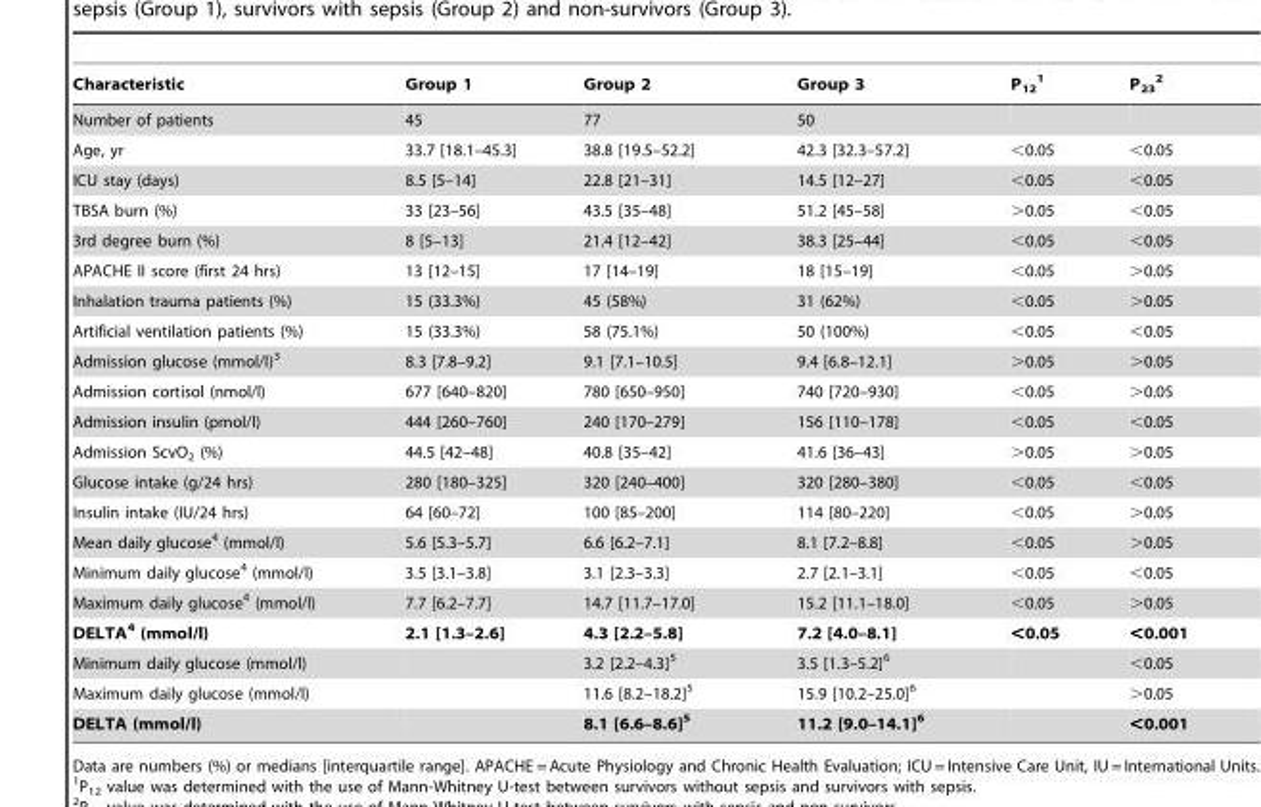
<table><thead><tr><td>Characteristic</td><td>Group 1</td><td>Group 2</td><td>Group 3</td><td>P<sub>12</sub> 1</td><td>P<sub>23</sub> 2</td></tr></thead><tbody><tr><td>Number of patients</td><td>45</td><td>77</td><td>50</td><td></td><td></td></tr><tr><td>Age, yr</td><td>33.7 [18.1–45.3]</td><td>38.8 [19.5–52.2]</td><td>42.3 [32.3–57.2]</td><td>&lt;0.05</td><td>&lt;0.05</td></tr><tr><td>ICU stay (days)</td><td>8.5 [5–14]</td><td>22.8 [21–31]</td><td>14.5 [12–27]</td><td>&lt;0.05</td><td>&lt;0.05</td></tr><tr><td>TBSA burn (%)</td><td>33 [23–56]</td><td>43.5 [35–48]</td><td>51.2 [45–58]</td><td>&gt;0.05</td><td>&lt;0.05</td></tr><tr><td>3rd degree burn (%)</td><td>8 [5–13]</td><td>21.4 [12–42]</td><td>38.3 [25–44]</td><td>&lt;0.05</td><td>&lt;0.05</td></tr><tr><td>APACHE II score (first 24 hrs)</td><td>13 [12–15]</td><td>17 [14–19]</td><td>18 [15–19]</td><td>&lt;0.05</td><td>&gt;0.05</td></tr><tr><td>Inhalation trauma patients (%)</td><td>15 (33.3%)</td><td>45 (58%)</td><td>31 (62%)</td><td>&lt;0.05</td><td>&gt;0.05</td></tr><tr><td>Artificial ventilation patients (%)</td><td>15 (33.3%)</td><td>58 (75.1%)</td><td>50 (100%)</td><td>&lt;0.05</td><td>&lt;0.05</td></tr><tr><td>Admission glucose (mmol/l)<sup>3</sup></td><td>8.3 [7.8–9.2]</td><td>9.1 [7.1–10.5]</td><td>9.4 [6.8–12.1]</td><td>&gt;0.05</td><td>&gt;0.05</td></tr><tr><td>Admission cortisol (nmol/l)</td><td>677 [640–820]</td><td>780 [650–950]</td><td>740 [720–930]</td><td>&lt;0.05</td><td>&gt;0.05</td></tr><tr><td>Admission insulin (pmol/l)</td><td>444 [260–760]</td><td>240 [170–279]</td><td>156 [110–178]</td><td>&lt;0.05</td><td>&lt;0.05</td></tr><tr><td>Admission ScvO<sub>2</sub> (%)</td><td>44.5 [42–48]</td><td>40.8 [35–42]</td><td>41.6 [36–43]</td><td>&gt;0.05</td><td>&gt;0.05</td></tr><tr><td>Glucose intake (g/24 hrs)</td><td>280 [180–325]</td><td>320 [240–400]</td><td>320 [280–380]</td><td>&lt;0.05</td><td>&lt;0.05</td></tr><tr><td>Insulin intake (IU/24 hrs)</td><td>64 [60–72]</td><td>100 [85–200]</td><td>114 [80–220]</td><td>&lt;0.05</td><td>&gt;0.05</td></tr><tr><td>Mean daily glucose<sup>4</sup> (mmol/l)</td><td>5.6 [5.3–5.7]</td><td>6.6 [6.2–7.1]</td><td>8.1 [7.2–8.8]</td><td>&lt;0.05</td><td>&gt;0.05</td></tr><tr><td>Minimum daily glucose<sup>4</sup> (mmol/l)</td><td>3.5 [3.1–3.8]</td><td>3.1 [2.3–3.3]</td><td>2.7 [2.1–3.1]</td><td>&lt;0.05</td><td>&lt;0.05</td></tr><tr><td>Maximum daily glucose<sup>4</sup> (mmol/l)</td><td>7.7 [6.2–7.7]</td><td>14.7 [11.7–17.0]</td><td>15.2 [11.1–18.0]</td><td>&lt;0.05</td><td>&gt;0.05</td></tr><tr><td>DELTA4 (mmol/l)</td><td>2.1 [1.3–2.6]</td><td>4.3 [2.2–5.8]</td><td>7.2 [4.0–8.1]</td><td>&lt;0.05</td><td>&lt;0.001</td></tr><tr><td>Minimum daily glucose (mmol/l)</td><td></td><td>3.2 [2.2–4.3]<sup>5</sup></td><td>3.5 [1.3–5.2]<sup>6</sup></td><td></td><td>&lt;0.05</td></tr><tr><td>Maximum daily glucose (mmol/l)</td><td></td><td>11.6 [8.2–18.2]<sup>5</sup></td><td>15.9 [10.2–25.0]<sup>6</sup></td><td></td><td>&gt;0.05</td></tr><tr><td>DELTA (mmol/l)</td><td></td><td>8.1 [6.6–8.6]5</td><td>11.2 [9.0–14.1]6</td><td></td><td>&lt;0.001</td></tr></tbody></table>